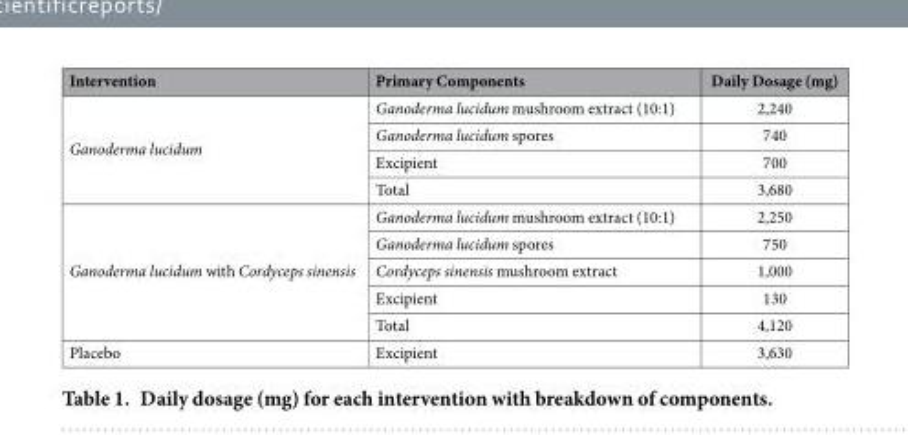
<table><thead><tr><td>Intervention</td><td>Primary Components</td><td>Daily Dosage (mg)</td></tr></thead><tbody><tr><td rowspan="4">Ganoderma lucidum</td><td>Ganoderma lucidum mushroom extract (10:1)</td><td>2,240</td></tr><tr><td>Ganoderma lucidum spores</td><td>740</td></tr><tr><td>Excipient</td><td>700</td></tr><tr><td>Total</td><td>3,680</td></tr><tr><td rowspan="5">Ganoderma lucidum with Cordyceps sinensis</td><td>Ganoderma lucidum mushroom extract (10:1)</td><td>2,250</td></tr><tr><td>Ganoderma lucidum spores</td><td>750</td></tr><tr><td>Cordyceps sinensis mushroom extract</td><td>1,000</td></tr><tr><td>Excipient</td><td>130</td></tr><tr><td>Total</td><td>4,120</td></tr><tr><td>Placebo</td><td>Excipient</td><td>3,630</td></tr></tbody></table>